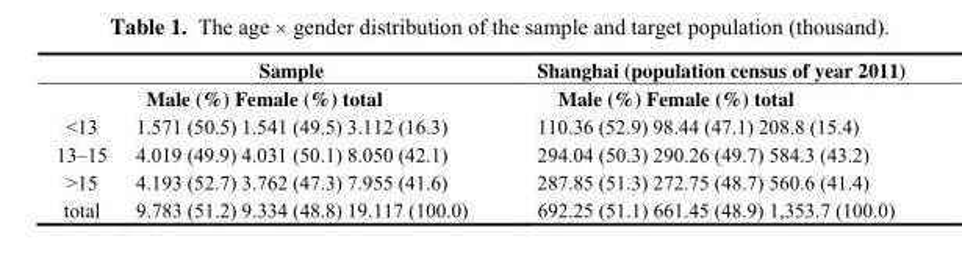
<table><thead><tr><td></td><td>Sample</td><td>Shanghai (population census of year 2011)</td></tr></thead><tbody><tr><td></td><td>Male (%) Female (%) total</td><td>Male (%) Female (%) total</td></tr><tr><td>&lt;13</td><td>1.571 (50.5) 1.541 (49.5) 3.112 (16.3)</td><td>110.36 (52.9) 98.44 (47.1) 208.8 (15.4)</td></tr><tr><td>13–15</td><td>4.019 (49.9) 4.031 (50.1) 8.050 (42.1)</td><td>294.04 (50.3) 290.26 (49.7) 584.3 (43.2)</td></tr><tr><td>&gt;15</td><td>4.193 (52.7) 3.762 (47.3) 7.955 (41.6)</td><td>287.85 (51.3) 272.75 (48.7) 560.6 (41.4)</td></tr><tr><td>total</td><td>9.783 (51.2) 9.334 (48.8) 19.117 (100.0)</td><td>692.25 (51.1) 661.45 (48.9) 1,353.7 (100.0)</td></tr></tbody></table>